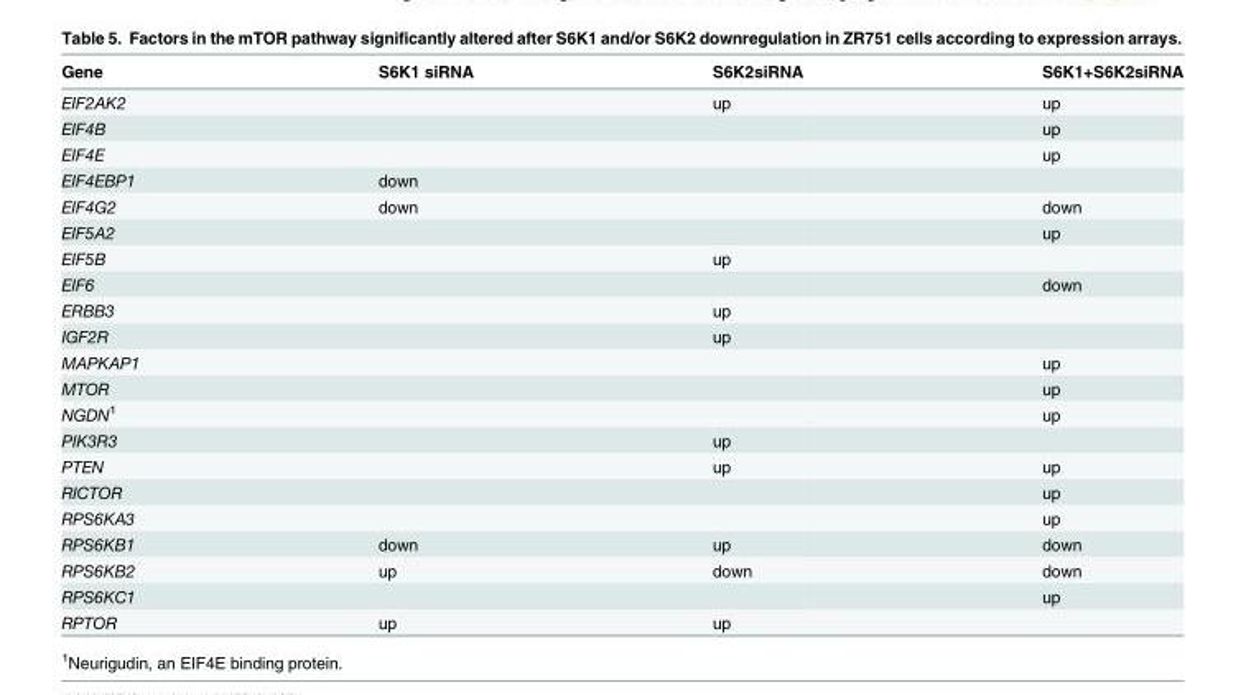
<table><thead><tr><td>Gene</td><td>S6K1 siRNA</td><td>S6K2siRNA</td><td>S6K1+S6K2siRNA</td></tr></thead><tbody><tr><td>EIF2AK2</td><td></td><td>up</td><td>up</td></tr><tr><td>EIF4B</td><td></td><td></td><td>up</td></tr><tr><td>EIF4E</td><td></td><td></td><td>up</td></tr><tr><td>EIF4EBP1</td><td>down</td><td></td><td></td></tr><tr><td>EIF4G2</td><td>down</td><td></td><td>down</td></tr><tr><td>EIF5A2</td><td></td><td></td><td>up</td></tr><tr><td>EIF5B</td><td></td><td>up</td><td></td></tr><tr><td>EIF6</td><td></td><td></td><td>down</td></tr><tr><td>ERBB3</td><td></td><td>up</td><td></td></tr><tr><td>IGF2R</td><td></td><td>up</td><td></td></tr><tr><td>MAPKAP1</td><td></td><td></td><td>up</td></tr><tr><td>MTOR</td><td></td><td></td><td>up</td></tr><tr><td>NGDN<sup>1</sup></td><td></td><td></td><td>up</td></tr><tr><td>PIK3R3</td><td></td><td>up</td><td></td></tr><tr><td>PTEN</td><td></td><td>up</td><td>up</td></tr><tr><td>RICTOR</td><td></td><td></td><td>up</td></tr><tr><td>RPS6KA3</td><td></td><td></td><td>up</td></tr><tr><td>RPS6KB1</td><td>down</td><td>up</td><td>down</td></tr><tr><td>RPS6KB2</td><td>up</td><td>down</td><td>down</td></tr><tr><td>RPS6KC1</td><td></td><td></td><td>up</td></tr><tr><td>RPTOR</td><td>up</td><td>up</td><td></td></tr></tbody></table>